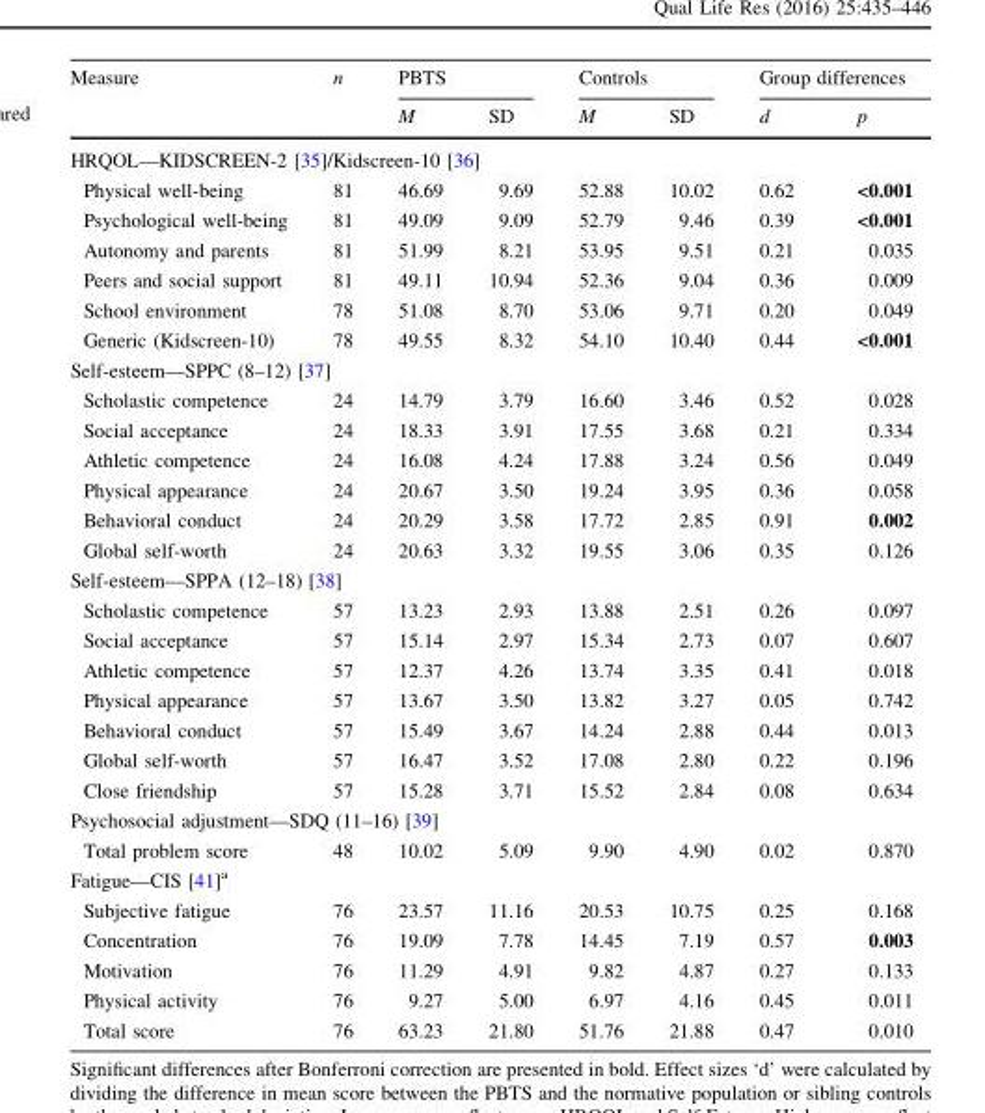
<table><thead><tr><td rowspan="2">Measure</td><td rowspan="2">n</td><td colspan="2">PBTS</td><td colspan="2">Controls</td><td colspan="2">Group differences</td></tr><tr><td>M</td><td>SD</td><td>M</td><td>SD</td><td>d</td><td>p</td></tr></thead><tbody><tr><td colspan="8">HRQOL—KIDSCREEN-2 [35]/Kidscreen-10 [36]</td></tr><tr><td>Physical well-being</td><td>81</td><td>46.69</td><td>9.69</td><td>52.88</td><td>10.02</td><td>0.62</td><td>&lt;0.001</td></tr><tr><td>Psychological well-being</td><td>81</td><td>49.09</td><td>9.09</td><td>52.79</td><td>9.46</td><td>0.39</td><td>&lt;0.001</td></tr><tr><td>Autonomy and parents</td><td>81</td><td>51.99</td><td>8.21</td><td>53.95</td><td>9.51</td><td>0.21</td><td>0.035</td></tr><tr><td>Peers and social support</td><td>81</td><td>49.11</td><td>10.94</td><td>52.36</td><td>9.04</td><td>0.36</td><td>0.009</td></tr><tr><td>School environment</td><td>78</td><td>51.08</td><td>8.70</td><td>53.06</td><td>9.71</td><td>0.20</td><td>0.049</td></tr><tr><td>Generic (Kidscreen-10)</td><td>78</td><td>49.55</td><td>8.32</td><td>54.10</td><td>10.40</td><td>0.44</td><td>&lt;0.001</td></tr><tr><td colspan="8">Self-esteem—SPPC (8–12) [37]</td></tr><tr><td>Scholastic competence</td><td>24</td><td>14.79</td><td>3.79</td><td>16.60</td><td>3.46</td><td>0.52</td><td>0.028</td></tr><tr><td>Social acceptance</td><td>24</td><td>18.33</td><td>3.91</td><td>17.55</td><td>3.68</td><td>0.21</td><td>0.334</td></tr><tr><td>Athletic competence</td><td>24</td><td>16.08</td><td>4.24</td><td>17.88</td><td>3.24</td><td>0.56</td><td>0.049</td></tr><tr><td>Physical appearance</td><td>24</td><td>20.67</td><td>3.50</td><td>19.24</td><td>3.95</td><td>0.36</td><td>0.058</td></tr><tr><td>Behavioral conduct</td><td>24</td><td>20.29</td><td>3.58</td><td>17.72</td><td>2.85</td><td>0.91</td><td>0.002</td></tr><tr><td>Global self-worth</td><td>24</td><td>20.63</td><td>3.32</td><td>19.55</td><td>3.06</td><td>0.35</td><td>0.126</td></tr><tr><td colspan="8">Self-esteem—SPPA (12–18) [38]</td></tr><tr><td>Scholastic competence</td><td>57</td><td>13.23</td><td>2.93</td><td>13.88</td><td>2.51</td><td>0.26</td><td>0.097</td></tr><tr><td>Social acceptance</td><td>57</td><td>15.14</td><td>2.97</td><td>15.34</td><td>2.73</td><td>0.07</td><td>0.607</td></tr><tr><td>Athletic competence</td><td>57</td><td>12.37</td><td>4.26</td><td>13.74</td><td>3.35</td><td>0.41</td><td>0.018</td></tr><tr><td>Physical appearance</td><td>57</td><td>13.67</td><td>3.50</td><td>13.82</td><td>3.27</td><td>0.05</td><td>0.742</td></tr><tr><td>Behavioral conduct</td><td>57</td><td>15.49</td><td>3.67</td><td>14.24</td><td>2.88</td><td>0.44</td><td>0.013</td></tr><tr><td>Global self-worth</td><td>57</td><td>16.47</td><td>3.52</td><td>17.08</td><td>2.80</td><td>0.22</td><td>0.196</td></tr><tr><td>Close friendship</td><td>57</td><td>15.28</td><td>3.71</td><td>15.52</td><td>2.84</td><td>0.08</td><td>0.634</td></tr><tr><td colspan="8">Psychosocial adjustment—SDQ (11–16) [39]</td></tr><tr><td>Total problem score</td><td>48</td><td>10.02</td><td>5.09</td><td>9.90</td><td>4.90</td><td>0.02</td><td>0.870</td></tr><tr><td colspan="8">Fatigue—CIS [41]<sup>a</sup></td></tr><tr><td>Subjective fatigue</td><td>76</td><td>23.57</td><td>11.16</td><td>20.53</td><td>10.75</td><td>0.25</td><td>0.168</td></tr><tr><td>Concentration</td><td>76</td><td>19.09</td><td>7.78</td><td>14.45</td><td>7.19</td><td>0.57</td><td>0.003</td></tr><tr><td>Motivation</td><td>76</td><td>11.29</td><td>4.91</td><td>9.82</td><td>4.87</td><td>0.27</td><td>0.133</td></tr><tr><td>Physical activity</td><td>76</td><td>9.27</td><td>5.00</td><td>6.97</td><td>4.16</td><td>0.45</td><td>0.011</td></tr><tr><td>Total score</td><td>76</td><td>63.23</td><td>21.80</td><td>51.76</td><td>21.88</td><td>0.47</td><td>0.010</td></tr></tbody></table>